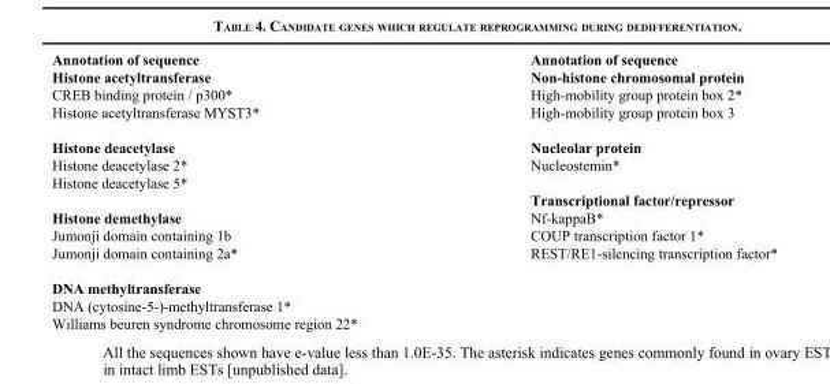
<table><thead><tr><td>Annotation of sequence</td><td>Annotation of sequence</td></tr></thead><tbody><tr><td>Histone acetyltransferase</td><td>Non-histone chromosomal protein</td></tr><tr><td>CREB binding protein / p300*</td><td>High-mobility group protein box 2*</td></tr><tr><td>Histone acetyltransferase MYST3*</td><td>High-mobility group protein box 3</td></tr><tr><td>Histone deacetylase</td><td>Nucleolar protein</td></tr><tr><td>Histone deacetylase 2*</td><td>Nucleostemin*</td></tr><tr><td colspan="2">Histone deacetylase 5*</td></tr><tr><td></td><td>Transcriptional factor/repressor</td></tr><tr><td>Histone demethylase</td><td>Nf-kappaB*</td></tr><tr><td>Jumonji domain containing 1b</td><td>COUP transcription factor 1*</td></tr><tr><td>Jumonji domain containing 2a*</td><td>REST/RE1-silencing transcription factor*</td></tr><tr><td colspan="2">DNA methyltransferase</td></tr><tr><td colspan="2">DNA (cytosine-5-)-methyltransferase 1*</td></tr><tr><td>Williams beuren syndrome chromosome region 22*</td><td></td></tr></tbody></table>